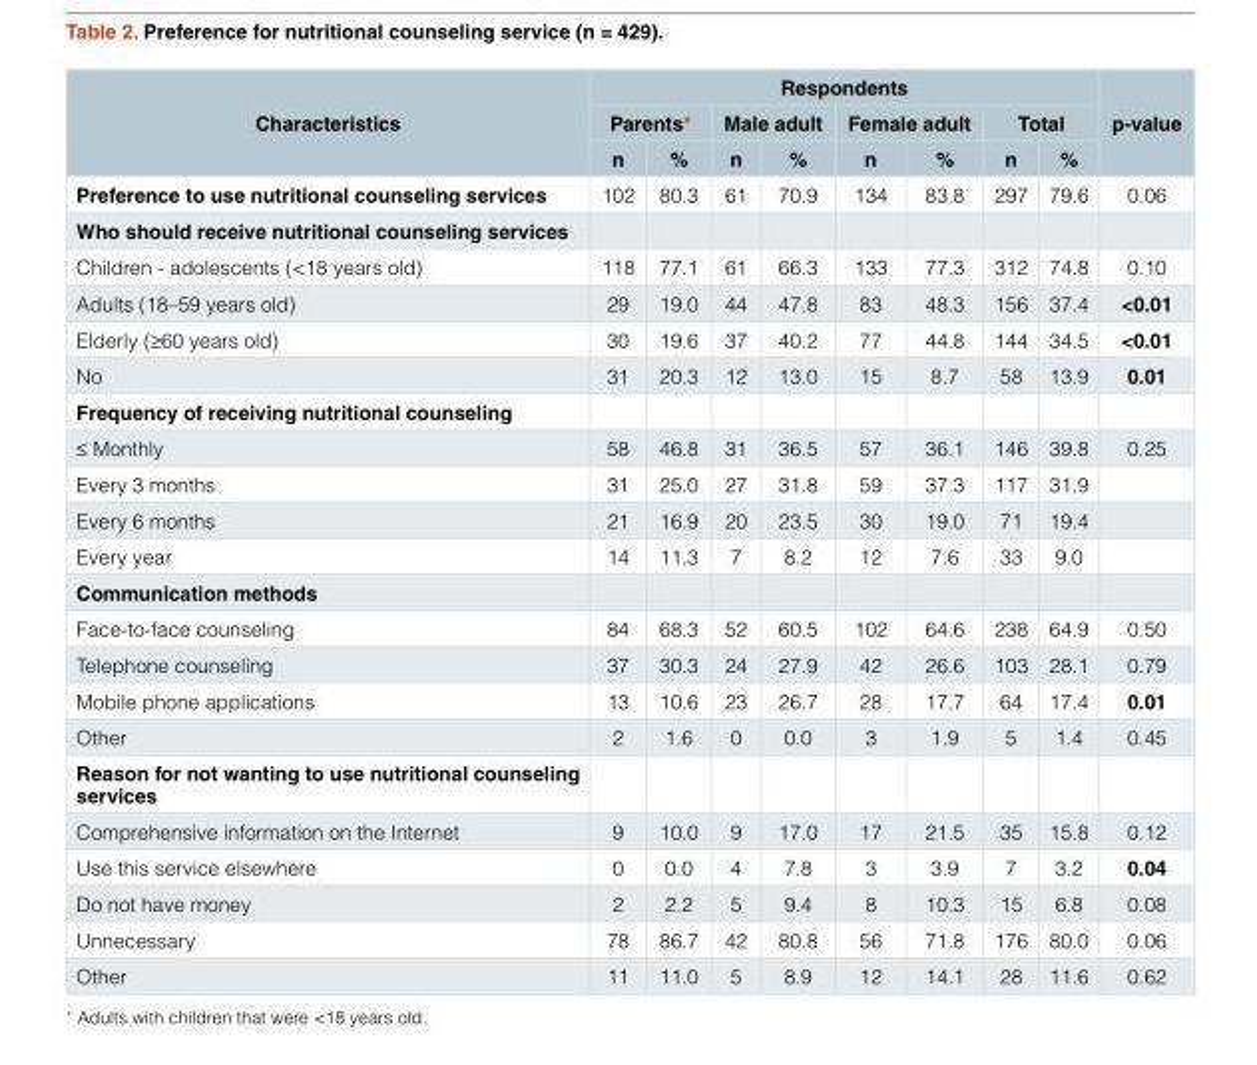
<table><thead><tr><td rowspan="3">Characteristics</td><td colspan="8">Respondents</td><td rowspan="3">p-value</td></tr><tr><td colspan="2">Parents*</td><td colspan="2">Male adult</td><td colspan="2">Female adult</td><td colspan="2">Total</td></tr><tr><td>n</td><td>%</td><td>n</td><td>%</td><td>n</td><td>%</td><td>n</td><td>%</td></tr></thead><tbody><tr><td>Preference to use nutritional counseling services</td><td>102</td><td>80.3</td><td>61</td><td>70.9</td><td>134</td><td>83.8</td><td>297</td><td>79.6</td><td>0.06</td></tr><tr><td colspan="10">Who should receive nutritional counseling services</td></tr><tr><td>Children - adolescents (&lt;18 years old)</td><td>118</td><td>77.1</td><td>61</td><td>66.3</td><td>133</td><td>77.3</td><td>312</td><td>74.8</td><td>0.10</td></tr><tr><td>Adults (18–59 years old)</td><td>29</td><td>19.0</td><td>44</td><td>47.8</td><td>83</td><td>48.3</td><td>156</td><td>37.4</td><td>&lt;0.01</td></tr><tr><td>Elderly (≥60 years old)</td><td>30</td><td>19.6</td><td>37</td><td>40.2</td><td>77</td><td>44.8</td><td>144</td><td>34.5</td><td>&lt;0.01</td></tr><tr><td>No</td><td>31</td><td>20.3</td><td>12</td><td>13.0</td><td>15</td><td>8.7</td><td>58</td><td>13.9</td><td>0.01</td></tr><tr><td colspan="10">Frequency of receiving nutritional counseling</td></tr><tr><td>≤ Monthly</td><td>58</td><td>46.8</td><td>31</td><td>36.5</td><td>57</td><td>36.1</td><td>146</td><td>39.8</td><td>0.25</td></tr><tr><td>Every 3 months</td><td>31</td><td>25.0</td><td>27</td><td>31.8</td><td>59</td><td>37.3</td><td>117</td><td>31.9</td><td></td></tr><tr><td>Every 6 months</td><td>21</td><td>16.9</td><td>20</td><td>23.5</td><td>30</td><td>19.0</td><td>71</td><td>19.4</td><td></td></tr><tr><td>Every year</td><td>14</td><td>11.3</td><td>7</td><td>8.2</td><td>12</td><td>7.6</td><td>33</td><td>9.0</td><td></td></tr><tr><td colspan="10">Communication methods</td></tr><tr><td>Face-to-face counseling</td><td>84</td><td>68.3</td><td>52</td><td>60.5</td><td>102</td><td>64.6</td><td>238</td><td>64.9</td><td>0.50</td></tr><tr><td>Telephone counseling</td><td>37</td><td>30.3</td><td>24</td><td>27.9</td><td>42</td><td>26.6</td><td>103</td><td>28.1</td><td>0.79</td></tr><tr><td>Mobile phone applications</td><td>13</td><td>10.6</td><td>23</td><td>26.7</td><td>28</td><td>17.7</td><td>64</td><td>17.4</td><td>0.01</td></tr><tr><td>Other</td><td>2</td><td>1.6</td><td>0</td><td>0.0</td><td>3</td><td>1.9</td><td>5</td><td>1.4</td><td>0.45</td></tr><tr><td colspan="10">Reason for not wanting to use nutritional counseling services</td></tr><tr><td>Comprehensive information on the Internet</td><td>9</td><td>10.0</td><td>9</td><td>17.0</td><td>17</td><td>21.5</td><td>35</td><td>15.8</td><td>0.12</td></tr><tr><td>Use this service elsewhere</td><td>0</td><td>0.0</td><td>4</td><td>7.8</td><td>3</td><td>3.9</td><td>7</td><td>3.2</td><td>0.04</td></tr><tr><td>Do not have money</td><td>2</td><td>2.2</td><td>5</td><td>9.4</td><td>8</td><td>10.3</td><td>15</td><td>6.8</td><td>0.08</td></tr><tr><td>Unnecessary</td><td>78</td><td>86.7</td><td>42</td><td>80.8</td><td>56</td><td>71.8</td><td>176</td><td>80.0</td><td>0.06</td></tr><tr><td>Other</td><td>11</td><td>11.0</td><td>5</td><td>8.9</td><td>12</td><td>14.1</td><td>28</td><td>11.6</td><td>0.62</td></tr></tbody></table>